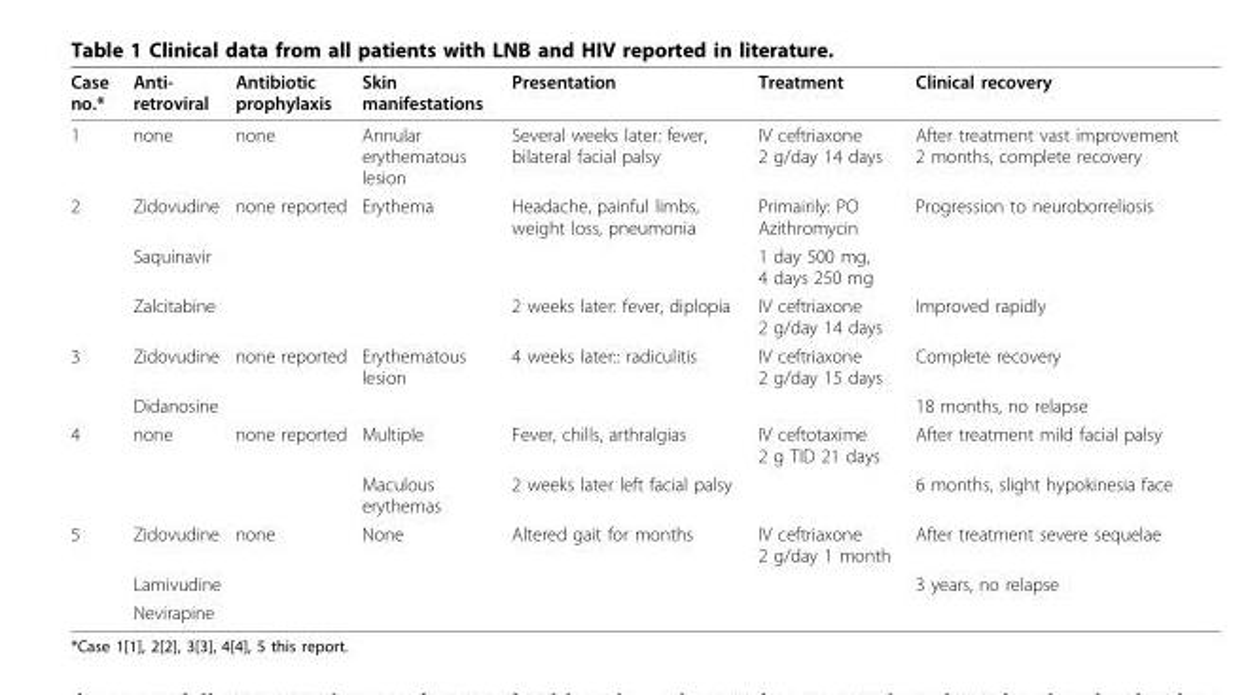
<table><thead><tr><td>Case no.*</td><td>Anti- retroviral</td><td>Antibiotic prophylaxis</td><td>Skin manifestations</td><td>Presentation</td><td>Treatment</td><td>Clinical recovery</td></tr></thead><tbody><tr><td>1</td><td>none</td><td>none</td><td>Annular erythematous lesion</td><td>Several weeks later: fever, bilateral facial palsy</td><td>IV ceftriaxone 2 g/day 14 days</td><td>After treatment vast improvement 2 months, complete recovery</td></tr><tr><td rowspan="3">2</td><td>Zidovudine</td><td>none reported</td><td>Erythema</td><td>Headache, painful limbs, weight loss, pneumonia</td><td>Primairily: PO Azithromycin</td><td>Progression to neuroborreliosis</td></tr><tr><td>Saquinavir</td><td></td><td></td><td></td><td>1 day 500 mg, 4 days 250 mg</td><td></td></tr><tr><td>Zalcitabine</td><td></td><td></td><td>2 weeks later: fever, diplopia</td><td>IV ceftriaxone 2 g/day 14 days</td><td>Improved rapidly</td></tr><tr><td rowspan="2">3</td><td>Zidovudine</td><td>none reported</td><td>Erythematous lesion</td><td>4 weeks later:: radiculitis</td><td>IV ceftriaxone 2 g/day 15 days</td><td>Complete recovery</td></tr><tr><td>Didanosine</td><td></td><td></td><td></td><td></td><td>18 months, no relapse</td></tr><tr><td rowspan="2">4</td><td>none</td><td>none reported</td><td>Multiple</td><td>Fever, chills, arthralgias</td><td>IV ceftotaxime 2 g TID 21 days</td><td>After treatment mild facial palsy</td></tr><tr><td></td><td></td><td>Maculous erythemas</td><td>2 weeks later left facial palsy</td><td></td><td>6 months, slight hypokinesia face</td></tr><tr><td rowspan="3">5</td><td>Zidovudine</td><td>none</td><td>None</td><td>Altered gait for months</td><td>IV ceftriaxone 2 g/day 1 month</td><td>After treatment severe sequelae</td></tr><tr><td>Lamivudine</td><td></td><td></td><td></td><td></td><td>3 years, no relapse</td></tr><tr><td>Nevirapine</td><td></td><td></td><td></td><td></td><td></td></tr></tbody></table>